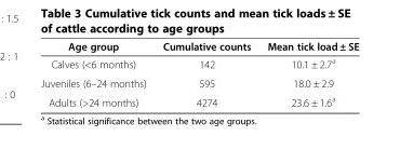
<table><thead><tr><td>Age group</td><td>Cumulative counts</td><td>Mean tick load ± SE</td></tr></thead><tbody><tr><td>Calves (&lt;6 months)</td><td>142</td><td>10.1 ± 2.7<sup>a</sup></td></tr><tr><td>Juveniles (6–24 months)</td><td>595</td><td>18.0 ± 2.9</td></tr><tr><td>Adults (&gt;24 months)</td><td>4274</td><td>23.6 ± 1.6<sup>a</sup></td></tr></tbody></table>